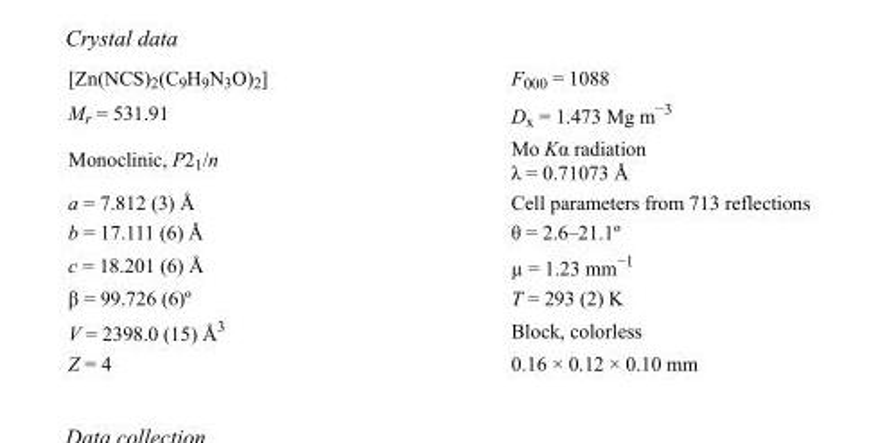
<table><tbody><tr><td>[Zn(NCS)<sub>2</sub>(C<sub>9</sub>H<sub>9</sub>N<sub>3</sub>O)<sub>2</sub>]</td><td>F<sub>000</sub> = 1088</td></tr><tr><td>M<sub>r</sub> = 531.91</td><td>D<sub>x</sub> = 1.473 Mg m<sup>−3</sup></td></tr><tr><td>Monoclinic, P2<sub>1</sub>/n</td><td>Mo Kα radiation λ = 0.71073 Å</td></tr><tr><td>a = 7.812 (3) Å</td><td>Cell parameters from 713 reflections</td></tr><tr><td>b = 17.111 (6) Å</td><td>θ = 2.6–21.1º</td></tr><tr><td>c = 18.201 (6) Å</td><td>µ = 1.23 mm<sup>−1</sup></td></tr><tr><td>β = 99.726 (6)º</td><td>T = 293 (2) K</td></tr><tr><td>V = 2398.0 (15) Å<sup>3</sup></td><td>Block, colorless</td></tr><tr><td>Z = 4</td><td>0.16 × 0.12 × 0.10 mm</td></tr></tbody></table>